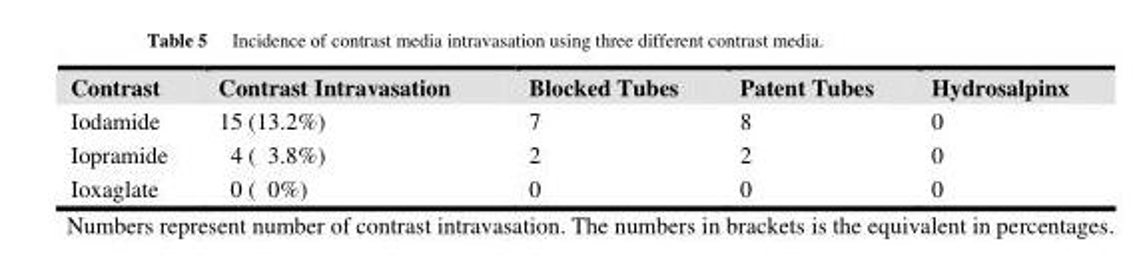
<table><thead><tr><td>Contrast</td><td>Contrast Intravasation</td><td>Blocked Tubes</td><td>Patent Tubes</td><td>Hydrosalpinx</td></tr></thead><tbody><tr><td>Iodamide</td><td>15 (13.2%)</td><td>7</td><td>8</td><td>0</td></tr><tr><td>Iopramide</td><td>4 ( 3.8%)</td><td>2</td><td>2</td><td>0</td></tr><tr><td>Ioxaglate</td><td>0 ( 0%)</td><td>0</td><td>0</td><td>0</td></tr></tbody></table>